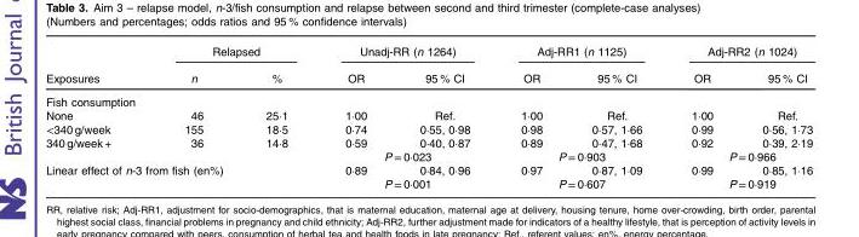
<table><thead><tr><td rowspan="2">Exposures</td><td colspan="2">Relapsed</td><td colspan="2">Unadj-RR (n 1264)</td><td colspan="2">Adj-RR1 (n 1125)</td><td colspan="2">Adj-RR2 (n 1024)</td></tr><tr><td>n</td><td>%</td><td>OR</td><td>95 % CI</td><td>OR</td><td>95 % CI</td><td>OR</td><td>95 % CI</td></tr></thead><tbody><tr><td colspan="9">Fish consumption</td></tr><tr><td>None</td><td>46</td><td>25·1</td><td>1·00</td><td>Ref.</td><td>1·00</td><td>Ref.</td><td>1·00</td><td>Ref.</td></tr><tr><td>&lt;340 g/week</td><td>155</td><td>18·5</td><td>0·74</td><td>0·55, 0·98</td><td>0·98</td><td>0·57, 1·66</td><td>0·99</td><td>0·56, 1·73</td></tr><tr><td rowspan="2">340 g/week +</td><td>36</td><td>14·8</td><td>0·59</td><td>0·40, 0·87</td><td>0·89</td><td>0·47, 1·68</td><td>0·92</td><td>0·39, 2·19</td></tr><tr><td colspan="2"></td><td colspan="2">P = 0·023</td><td colspan="2">P = 0·903</td><td colspan="2">P = 0·966</td></tr><tr><td colspan="3">Linear effect of n-3 from fish (en%)</td><td>0·89</td><td>0·84, 0·96</td><td>0·97</td><td>0·87, 1·09</td><td>0·99</td><td>0·85, 1·16</td></tr><tr><td></td><td></td><td></td><td colspan="2">P = 0·001</td><td colspan="2">P = 0·607</td><td colspan="2">P = 0·919</td></tr></tbody></table>